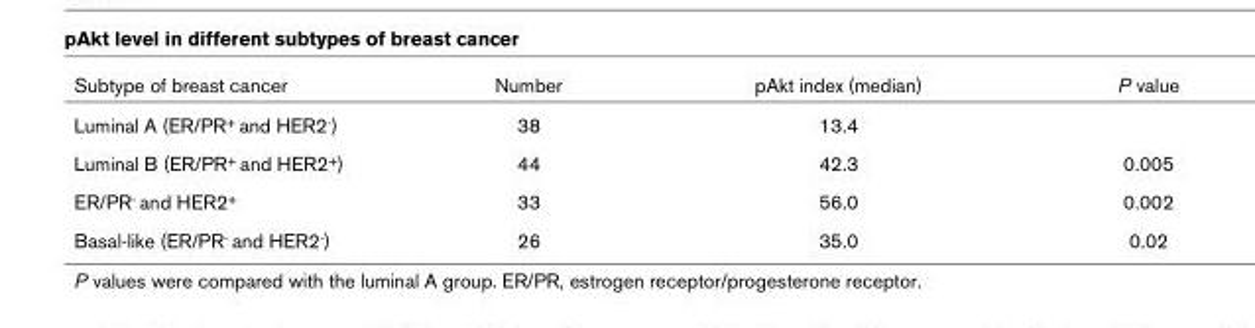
<table><thead><tr><td>Subtype of breast cancer</td><td>Number</td><td>pAkt index (median)</td><td>P value</td></tr></thead><tbody><tr><td>Luminal A (ER/PR<sup>+</sup> and HER2<sup>-</sup>)</td><td>38</td><td>13.4</td><td></td></tr><tr><td>Luminal B (ER/PR<sup>+</sup> and HER2<sup>+</sup>)</td><td>44</td><td>42.3</td><td>0.005</td></tr><tr><td>ER/PR<sup>-</sup> and HER2<sup>+</sup></td><td>33</td><td>56.0</td><td>0.002</td></tr><tr><td>Basal-like (ER/PR<sup>-</sup> and HER2<sup>-</sup>)</td><td>26</td><td>35.0</td><td>0.02</td></tr></tbody></table>